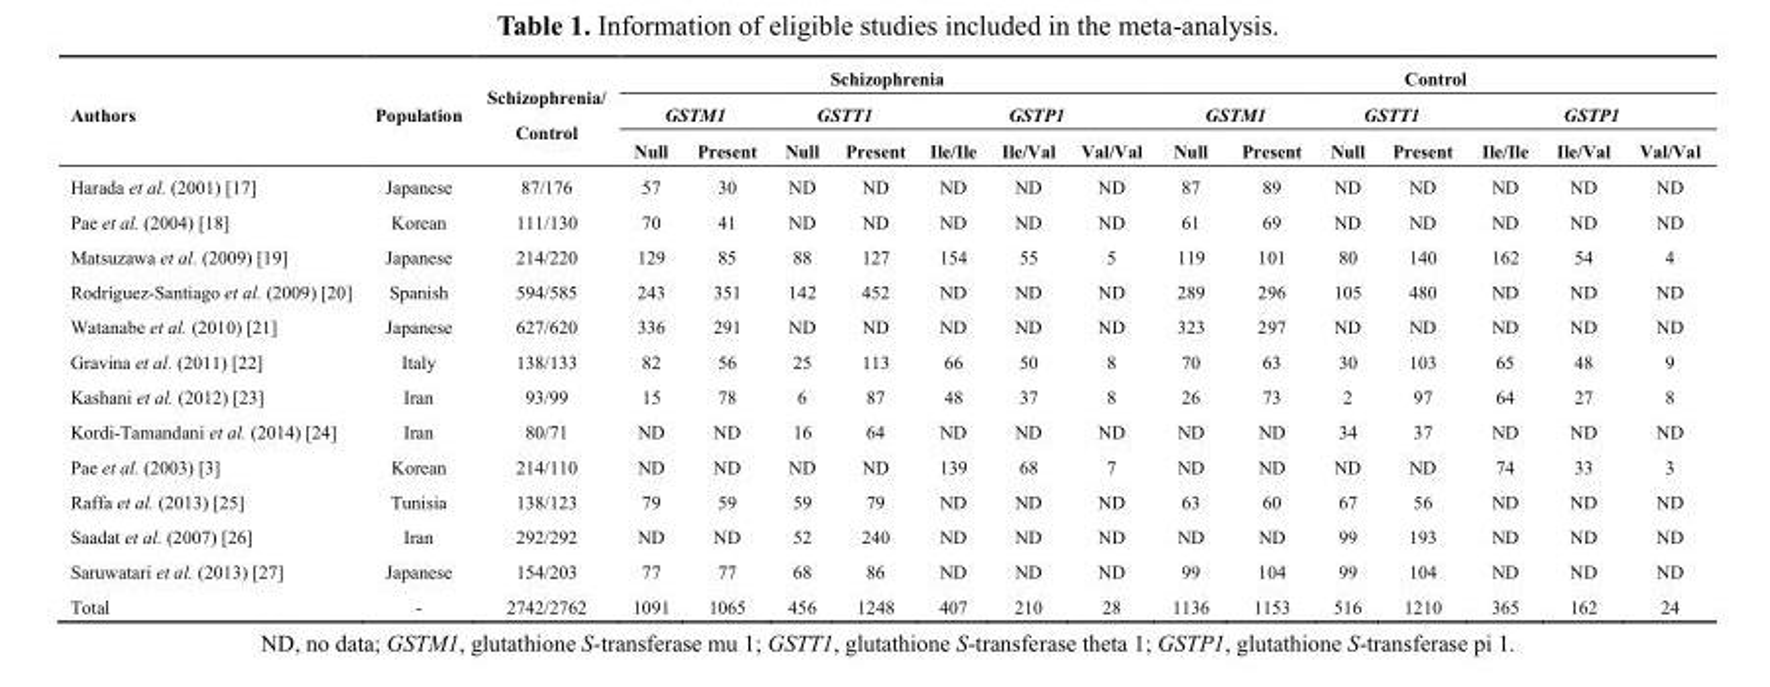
<table><thead><tr><td rowspan="3">Authors</td><td rowspan="3">Population</td><td rowspan="3">Schizophrenia/ Control</td><td colspan="7">Schizophrenia</td><td colspan="7">Control</td></tr><tr><td colspan="2">GSTM1</td><td colspan="2">GSTT1</td><td colspan="3">GSTP1</td><td colspan="2">GSTM1</td><td colspan="2">GSTT1</td><td colspan="3">GSTP1</td></tr><tr><td>Null</td><td>Present</td><td>Null</td><td>Present</td><td>Ile/Ile</td><td>Ile/Val</td><td>Val/Val</td><td>Null</td><td>Present</td><td>Null</td><td>Present</td><td>Ile/Ile</td><td>Ile/Val</td><td>Val/Val</td></tr></thead><tbody><tr><td>Harada et al. (2001) [17]</td><td>Japanese</td><td>87/176</td><td>57</td><td>30</td><td>ND</td><td>ND</td><td>ND</td><td>ND</td><td>ND</td><td>87</td><td>89</td><td>ND</td><td>ND</td><td>ND</td><td>ND</td><td>ND</td></tr><tr><td>Pae et al. (2004) [18]</td><td>Korean</td><td>111/130</td><td>70</td><td>41</td><td>ND</td><td>ND</td><td>ND</td><td>ND</td><td>ND</td><td>61</td><td>69</td><td>ND</td><td>ND</td><td>ND</td><td>ND</td><td>ND</td></tr><tr><td>Matsuzawa et al. (2009) [19]</td><td>Japanese</td><td>214/220</td><td>129</td><td>85</td><td>88</td><td>127</td><td>154</td><td>55</td><td>5</td><td>119</td><td>101</td><td>80</td><td>140</td><td>162</td><td>54</td><td>4</td></tr><tr><td>Rodríguez-Santiago et al. (2009) [20]</td><td>Spanish</td><td>594/585</td><td>243</td><td>351</td><td>142</td><td>452</td><td>ND</td><td>ND</td><td>ND</td><td>289</td><td>296</td><td>105</td><td>480</td><td>ND</td><td>ND</td><td>ND</td></tr><tr><td>Watanabe et al. (2010) [21]</td><td>Japanese</td><td>627/620</td><td>336</td><td>291</td><td>ND</td><td>ND</td><td>ND</td><td>ND</td><td>ND</td><td>323</td><td>297</td><td>ND</td><td>ND</td><td>ND</td><td>ND</td><td>ND</td></tr><tr><td>Gravina et al. (2011) [22]</td><td>Italy</td><td>138/133</td><td>82</td><td>56</td><td>25</td><td>113</td><td>66</td><td>50</td><td>8</td><td>70</td><td>63</td><td>30</td><td>103</td><td>65</td><td>48</td><td>9</td></tr><tr><td>Kashani et al. (2012) [23]</td><td>Iran</td><td>93/99</td><td>15</td><td>78</td><td>6</td><td>87</td><td>48</td><td>37</td><td>8</td><td>26</td><td>73</td><td>2</td><td>97</td><td>64</td><td>27</td><td>8</td></tr><tr><td>Kordi-Tamandani et al. (2014) [24]</td><td>Iran</td><td>80/71</td><td>ND</td><td>ND</td><td>16</td><td>64</td><td>ND</td><td>ND</td><td>ND</td><td>ND</td><td>ND</td><td>34</td><td>37</td><td>ND</td><td>ND</td><td>ND</td></tr><tr><td>Pae et al. (2003) [3]</td><td>Korean</td><td>214/110</td><td>ND</td><td>ND</td><td>ND</td><td>ND</td><td>139</td><td>68</td><td>7</td><td>ND</td><td>ND</td><td>ND</td><td>ND</td><td>74</td><td>33</td><td>3</td></tr><tr><td>Raffa et al. (2013) [25]</td><td>Tunisia</td><td>138/123</td><td>79</td><td>59</td><td>59</td><td>79</td><td>ND</td><td>ND</td><td>ND</td><td>63</td><td>60</td><td>67</td><td>56</td><td>ND</td><td>ND</td><td>ND</td></tr><tr><td>Saadat et al. (2007) [26]</td><td>Iran</td><td>292/292</td><td>ND</td><td>ND</td><td>52</td><td>240</td><td>ND</td><td>ND</td><td>ND</td><td>ND</td><td>ND</td><td>99</td><td>193</td><td>ND</td><td>ND</td><td>ND</td></tr><tr><td>Saruwatari et al. (2013) [27]</td><td>Japanese</td><td>154/203</td><td>77</td><td>77</td><td>68</td><td>86</td><td>ND</td><td>ND</td><td>ND</td><td>99</td><td>104</td><td>99</td><td>104</td><td>ND</td><td>ND</td><td>ND</td></tr><tr><td>Total</td><td>-</td><td>2742/2762</td><td>1091</td><td>1065</td><td>456</td><td>1248</td><td>407</td><td>210</td><td>28</td><td>1136</td><td>1153</td><td>516</td><td>1210</td><td>365</td><td>162</td><td>24</td></tr></tbody></table>